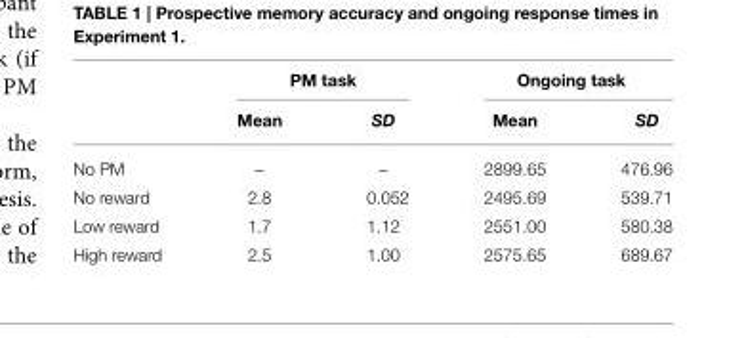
<table><thead><tr><td rowspan="2"></td><td colspan="2">PM task</td><td colspan="2">Ongoing task</td></tr><tr><td>Mean</td><td>SD</td><td>Mean</td><td>SD</td></tr></thead><tbody><tr><td>No PM</td><td>–</td><td>–</td><td>2899.65</td><td>476.96</td></tr><tr><td>No reward</td><td>2.8</td><td>0.052</td><td>2495.69</td><td>539.71</td></tr><tr><td>Low reward</td><td>1.7</td><td>1.12</td><td>2551.00</td><td>580.38</td></tr><tr><td>High reward</td><td>2.5</td><td>1.00</td><td>2575.65</td><td>689.67</td></tr></tbody></table>